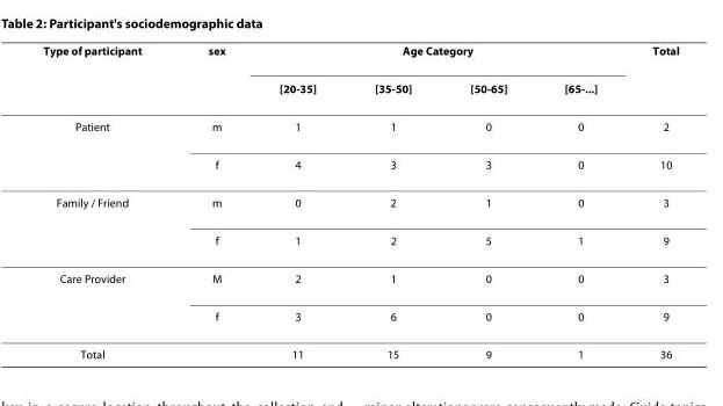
<table><thead><tr><td rowspan="2">Type of participant</td><td rowspan="2">sex</td><td colspan="4">Age Category</td><td rowspan="2">Total</td></tr><tr><td>[20-35]</td><td>[35-50]</td><td>[50-65]</td><td>[65-...]</td></tr></thead><tbody><tr><td rowspan="2">Patient</td><td>m</td><td>1</td><td>1</td><td>0</td><td>0</td><td>2</td></tr><tr><td>f</td><td>4</td><td>3</td><td>3</td><td>0</td><td>10</td></tr><tr><td rowspan="2">Family / Friend</td><td>m</td><td>0</td><td>2</td><td>1</td><td>0</td><td>3</td></tr><tr><td>f</td><td>1</td><td>2</td><td>5</td><td>1</td><td>9</td></tr><tr><td rowspan="2">Care Provider</td><td>M</td><td>2</td><td>1</td><td>0</td><td>0</td><td>3</td></tr><tr><td>f</td><td>3</td><td>6</td><td>0</td><td>0</td><td>9</td></tr><tr><td>Total</td><td></td><td>11</td><td>15</td><td>9</td><td>1</td><td>36</td></tr></tbody></table>